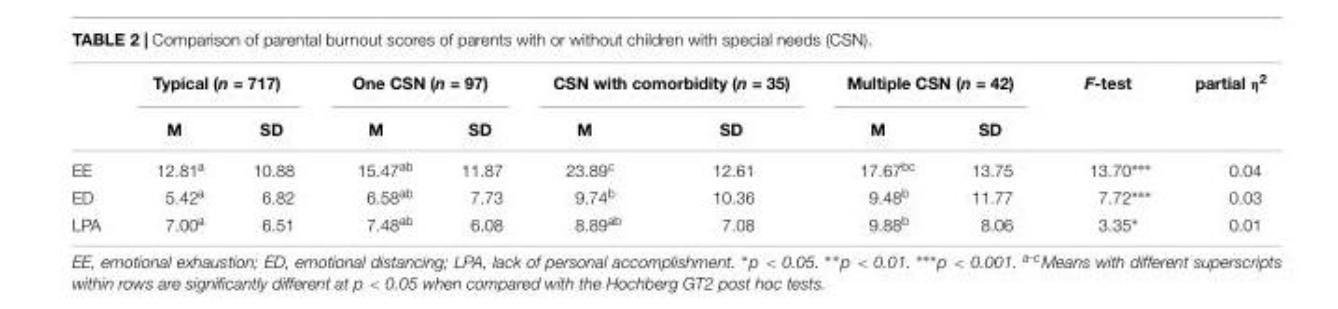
<table><thead><tr><td rowspan="2"></td><td colspan="2">Typical (n = 717)</td><td colspan="2">One CSN (n = 97)</td><td colspan="2">CSN with comorbidity (n = 35)</td><td colspan="2">Multiple CSN (n = 42)</td><td rowspan="2">F-test</td><td rowspan="2">partial η<sup>2</sup></td></tr><tr><td>M</td><td>SD</td><td>M</td><td>SD</td><td>M</td><td>SD</td><td>M</td><td>SD</td></tr></thead><tbody><tr><td>EE</td><td>12.81<sup>a</sup></td><td>10.88</td><td>15.47<sup>ab</sup></td><td>11.87</td><td>23.89<sup>c</sup></td><td>12.61</td><td>17.67<sup>bc</sup></td><td>13.75</td><td>13.70∗∗∗</td><td>0.04</td></tr><tr><td>ED</td><td>5.42<sup>a</sup></td><td>6.82</td><td>6.58<sup>ab</sup></td><td>7.73</td><td>9.74<sup>b</sup></td><td>10.36</td><td>9.48<sup>b</sup></td><td>11.77</td><td>7.72∗∗∗</td><td>0.03</td></tr><tr><td>LPA</td><td>7.00<sup>a</sup></td><td>6.51</td><td>7.48<sup>ab</sup></td><td>6.08</td><td>8.89<sup>ab</sup></td><td>7.08</td><td>9.88<sup>b</sup></td><td>8.06</td><td>3.35∗</td><td>0.01</td></tr></tbody></table>